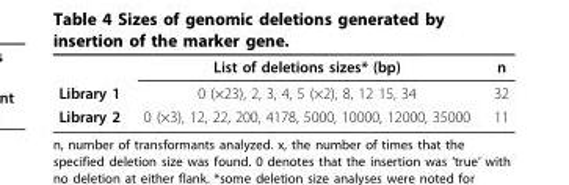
<table><thead><tr><td></td><td>List of deletions sizes* (bp)</td><td>n</td></tr></thead><tbody><tr><td>Library 1</td><td>0 (×23), 2, 3, 4, 5 (×2), 8, 12 15, 34</td><td>32</td></tr><tr><td>Library 2</td><td>0 (×3), 12, 22, 200, 4178, 5000, 10000, 12000, 35000</td><td>11</td></tr></tbody></table>